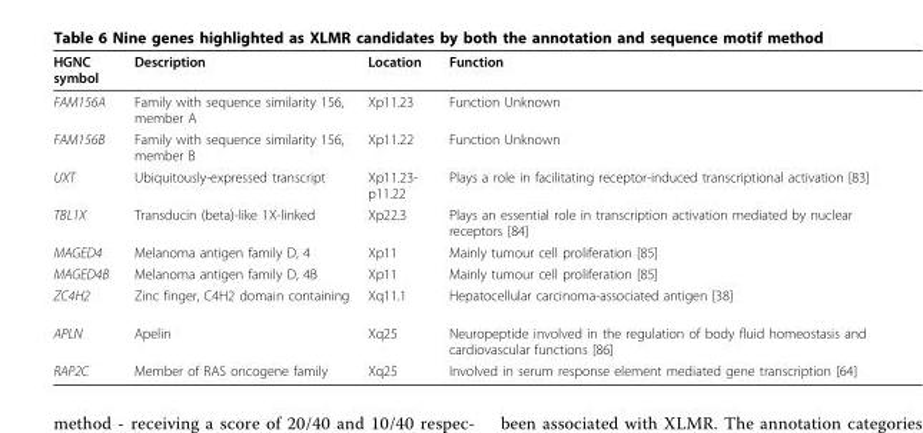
<table><thead><tr><td>HGNC symbol</td><td>Description</td><td>Location</td><td>Function</td></tr></thead><tbody><tr><td>FAM156A</td><td>Family with sequence similarity 156, member A</td><td>Xp11.23</td><td>Function Unknown</td></tr><tr><td>FAM156B</td><td>Family with sequence similarity 156, member B</td><td>Xp11.22</td><td>Function Unknown</td></tr><tr><td>UXT</td><td>Ubiquitously-expressed transcript</td><td>Xp11.23- p11.22</td><td>Plays a role in facilitating receptor-induced transcriptional activation [83]</td></tr><tr><td>TBL1X</td><td>Transducin (beta)-like 1X-linked</td><td>Xp22.3</td><td>Plays an essential role in transcription activation mediated by nuclear receptors [84]</td></tr><tr><td>MAGED4</td><td>Melanoma antigen family D, 4</td><td>Xp11</td><td>Mainly tumour cell proliferation [85]</td></tr><tr><td>MAGED4B</td><td>Melanoma antigen family D, 4B</td><td>Xp11</td><td>Mainly tumour cell proliferation [85]</td></tr><tr><td>ZC4H2</td><td>Zinc finger, C4H2 domain containing</td><td>Xq11.1</td><td>Hepatocellular carcinoma-associated antigen [38]</td></tr><tr><td>APLN</td><td>Apelin</td><td>Xq25</td><td>Neuropeptide involved in the regulation of body fluid homeostasis and cardiovascular functions [86]</td></tr><tr><td>RAP2C</td><td>Member of RAS oncogene family</td><td>Xq25</td><td>Involved in serum response element mediated gene transcription [64]</td></tr></tbody></table>